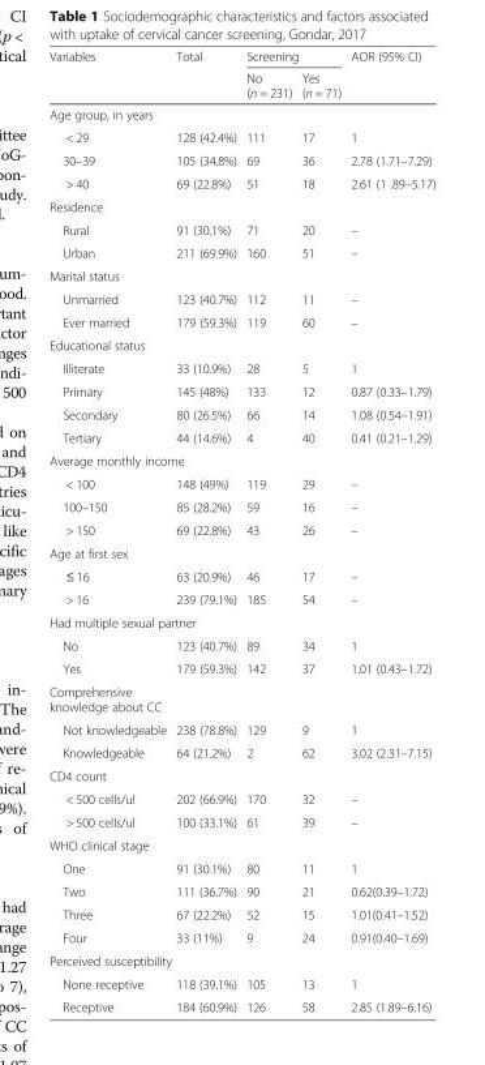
<table><thead><tr><td rowspan="2">Variables</td><td rowspan="2">Total</td><td colspan="2">Screening</td><td rowspan="2">AOR (95% CI)</td></tr><tr><td>No (n = 231)</td><td>Yes (n = 71)</td></tr></thead><tbody><tr><td colspan="5">Age group, in years</td></tr><tr><td>&lt; 29</td><td>128 (42.4%)</td><td>111</td><td>17</td><td>1</td></tr><tr><td>30–39</td><td>105 (34.8%)</td><td>69</td><td>36</td><td>2.78 (1.71–7.29)</td></tr><tr><td>&gt; 40</td><td>69 (22.8%)</td><td>51</td><td>18</td><td>2.61 (1 .89–5.17)</td></tr><tr><td colspan="5">Residence</td></tr><tr><td>Rural</td><td>91 (30.1%)</td><td>71</td><td>20</td><td>–</td></tr><tr><td>Urban</td><td>211 (69.9%)</td><td>160</td><td>51</td><td>–</td></tr><tr><td colspan="5">Marital status</td></tr><tr><td>Unmarried</td><td>123 (40.7%)</td><td>112</td><td>11</td><td>–</td></tr><tr><td>Ever married</td><td>179 (59.3%)</td><td>119</td><td>60</td><td>–</td></tr><tr><td colspan="5">Educational status</td></tr><tr><td>Illiterate</td><td>33 (10.9%)</td><td>28</td><td>5</td><td>1</td></tr><tr><td>Primary</td><td>145 (48%)</td><td>133</td><td>12</td><td>0.87 (0.33–1.79)</td></tr><tr><td>Secondary</td><td>80 (26.5%)</td><td>66</td><td>14</td><td>1.08 (0.54–1.91)</td></tr><tr><td>Tertiary</td><td>44 (14.6%)</td><td>4</td><td>40</td><td>0.41 (0.21–1.29)</td></tr><tr><td colspan="5">Average monthly income</td></tr><tr><td>&lt; 100</td><td>148 (49%)</td><td>119</td><td>29</td><td>–</td></tr><tr><td>100–150</td><td>85 (28.2%)</td><td>59</td><td>16</td><td>–</td></tr><tr><td>&gt; 150</td><td>69 (22.8%)</td><td>43</td><td>26</td><td>–</td></tr><tr><td colspan="5">Age at first sex</td></tr><tr><td>≤ 16</td><td>63 (20.9%)</td><td>46</td><td>17</td><td>–</td></tr><tr><td>&gt; 16</td><td>239 (79.1%)</td><td>185</td><td>54</td><td>–</td></tr><tr><td colspan="5">Had multiple sexual partner</td></tr><tr><td>No</td><td>123 (40.7%)</td><td>89</td><td>34</td><td>1</td></tr><tr><td>Yes</td><td>179 (59.3%)</td><td>142</td><td>37</td><td>1.01 (0.43–1.72)</td></tr><tr><td colspan="5">Comprehensive knowledge about CC</td></tr><tr><td>Not knowledgeable</td><td>238 (78.8%)</td><td>129</td><td>9</td><td>1</td></tr><tr><td>Knowledgeable</td><td>64 (21.2%)</td><td>2</td><td>62</td><td>3.02 (2.31–7.15)</td></tr><tr><td colspan="5">CD4 count</td></tr><tr><td>&lt; 500 cells/ul</td><td>202 (66.9%)</td><td>170</td><td>32</td><td>–</td></tr><tr><td>&gt; 500 cells/ul</td><td>100 (33.1%)</td><td>61</td><td>39</td><td>–</td></tr><tr><td colspan="5">WHO clinical stage</td></tr><tr><td>One</td><td>91 (30.1%)</td><td>80</td><td>11</td><td>1</td></tr><tr><td>Two</td><td>111 (36.7%)</td><td>90</td><td>21</td><td>0.62(0.39–1.72)</td></tr><tr><td>Three</td><td>67 (22.2%)</td><td>52</td><td>15</td><td>1.01(0.41–1.52)</td></tr><tr><td>Four</td><td>33 (11%)</td><td>9</td><td>24</td><td>0.91(0.40–1.69)</td></tr><tr><td colspan="5">Perceived susceptibility</td></tr><tr><td>None receptive</td><td>118 (39.1%)</td><td>105</td><td>13</td><td>1</td></tr><tr><td>Receptive</td><td>184 (60.9%)</td><td>126</td><td>58</td><td>2.85 (1.89–6.16)</td></tr></tbody></table>